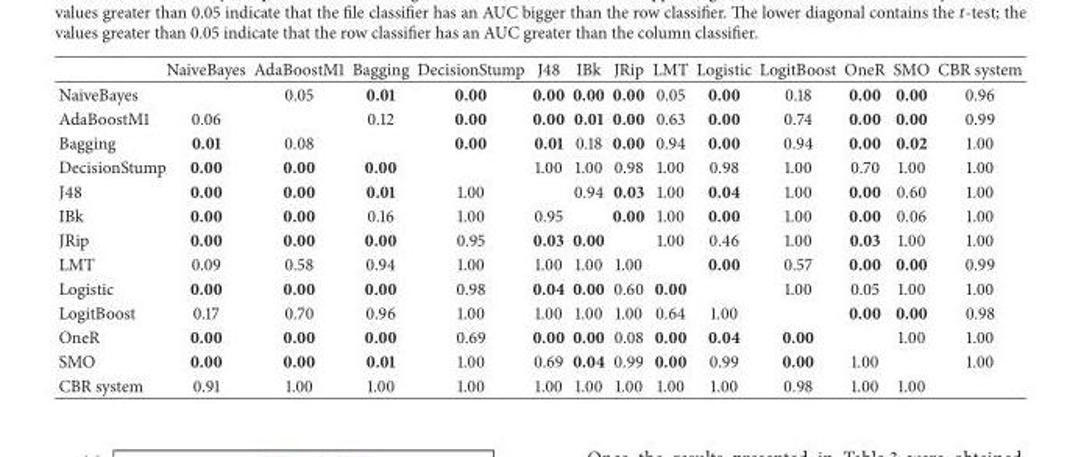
<table><thead><tr><td></td><td>NaiveBayes</td><td>AdaBoostM1</td><td>Bagging</td><td>DecisionStump</td><td>J48</td><td>IBk</td><td>JRip</td><td>LMT</td><td>Logistic</td><td>LogitBoost</td><td>OneR</td><td>SMO</td><td>CBR system</td></tr></thead><tbody><tr><td>NaiveBayes</td><td></td><td>0.05</td><td>0.01</td><td>0.00</td><td>0.00</td><td>0.00</td><td>0.00</td><td>0.05</td><td>0.00</td><td>0.18</td><td>0.00</td><td>0.00</td><td>0.96</td></tr><tr><td>AdaBoostM1</td><td>0.06</td><td></td><td>0.12</td><td>0.00</td><td>0.00</td><td>0.01</td><td>0.00</td><td>0.63</td><td>0.00</td><td>0.74</td><td>0.00</td><td>0.00</td><td>0.99</td></tr><tr><td>Bagging</td><td>0.01</td><td>0.08</td><td></td><td>0.00</td><td>0.01</td><td>0.18</td><td>0.00</td><td>0.94</td><td>0.00</td><td>0.94</td><td>0.00</td><td>0.02</td><td>1.00</td></tr><tr><td>DecisionStump</td><td>0.00</td><td>0.00</td><td>0.00</td><td></td><td>1.00</td><td>1.00</td><td>0.98</td><td>1.00</td><td>0.98</td><td>1.00</td><td>0.70</td><td>1.00</td><td>1.00</td></tr><tr><td>J48</td><td>0.00</td><td>0.00</td><td>0.01</td><td>1.00</td><td></td><td>0.94</td><td>0.03</td><td>1.00</td><td>0.04</td><td>1.00</td><td>0.00</td><td>0.60</td><td>1.00</td></tr><tr><td>IBk</td><td>0.00</td><td>0.00</td><td>0.16</td><td>1.00</td><td>0.95</td><td></td><td>0.00</td><td>1.00</td><td>0.00</td><td>1.00</td><td>0.00</td><td>0.06</td><td>1.00</td></tr><tr><td>JRip</td><td>0.00</td><td>0.00</td><td>0.00</td><td>0.95</td><td>0.03</td><td>0.00</td><td></td><td>1.00</td><td>0.46</td><td>1.00</td><td>0.03</td><td>1.00</td><td>1.00</td></tr><tr><td>LMT</td><td>0.09</td><td>0.58</td><td>0.94</td><td>1.00</td><td>1.00</td><td>1.00</td><td>1.00</td><td></td><td>0.00</td><td>0.57</td><td>0.00</td><td>0.00</td><td>0.99</td></tr><tr><td>Logistic</td><td>0.00</td><td>0.00</td><td>0.00</td><td>0.98</td><td>0.04</td><td>0.00</td><td>0.60</td><td>0.00</td><td></td><td>1.00</td><td>0.05</td><td>1.00</td><td>1.00</td></tr><tr><td>LogitBoost</td><td>0.17</td><td>0.70</td><td>0.96</td><td>1.00</td><td>1.00</td><td>1.00</td><td>1.00</td><td>0.64</td><td>1.00</td><td></td><td>0.00</td><td>0.00</td><td>0.98</td></tr><tr><td>OneR</td><td>0.00</td><td>0.00</td><td>0.00</td><td>0.69</td><td>0.00</td><td>0.00</td><td>0.08</td><td>0.00</td><td>0.04</td><td>0.00</td><td></td><td>1.00</td><td>1.00</td></tr><tr><td>SMO</td><td>0.00</td><td>0.00</td><td>0.01</td><td>1.00</td><td>0.69</td><td>0.04</td><td>0.99</td><td>0.00</td><td>0.99</td><td>0.00</td><td>1.00</td><td></td><td>1.00</td></tr><tr><td>CBR system</td><td>0.91</td><td>1.00</td><td>1.00</td><td>1.00</td><td>1.00</td><td>1.00</td><td>1.00</td><td>1.00</td><td>1.00</td><td>0.98</td><td>1.00</td><td>1.00</td><td></td></tr></tbody></table>